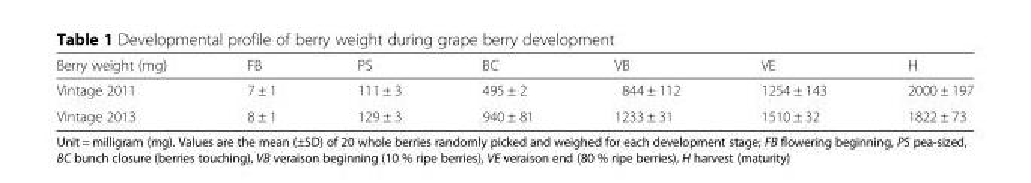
<table><thead><tr><td>Berry weight (mg)</td><td>FB</td><td>PS</td><td>BC</td><td>VB</td><td>VE</td><td>H</td></tr></thead><tbody><tr><td>Vintage 2011</td><td>7 ± 1</td><td>111 ± 3</td><td>495 ± 2</td><td>844 ± 112</td><td>1254 ± 143</td><td>2000 ± 197</td></tr><tr><td>Vintage 2013</td><td>8 ± 1</td><td>129 ± 3</td><td>940 ± 81</td><td>1233 ± 31</td><td>1510 ± 32</td><td>1822 ± 73</td></tr></tbody></table>